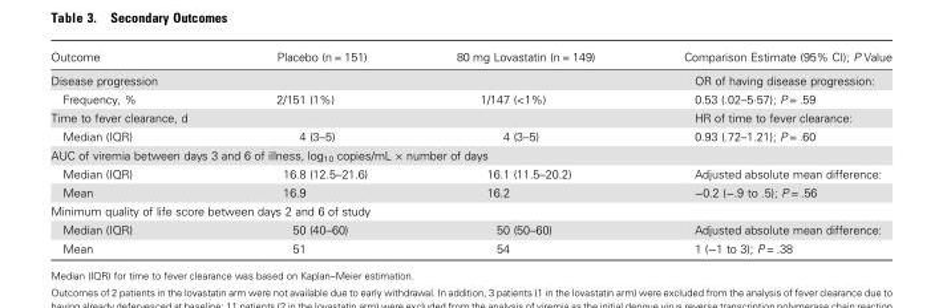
<table><thead><tr><td>Outcome</td><td>Placebo (n = 151)</td><td>80 mg Lovastatin (n = 149)</td><td>Comparison Estimate (95% CI); P Value</td></tr></thead><tbody><tr><td>Disease progression</td><td></td><td></td><td>OR of having disease progression:</td></tr><tr><td>Frequency, %</td><td>2/151 (1%)</td><td>1/147 (&lt;1%)</td><td>0.53 (.02–5·57); P = .59</td></tr><tr><td>Time to fever clearance, d</td><td></td><td></td><td>HR of time to fever clearance:</td></tr><tr><td>Median (IQR)</td><td>4 (3–5)</td><td>4 (3–5)</td><td>0.93 (.72–1.21); P = .60</td></tr><tr><td colspan="4">AUC of viremia between days 3 and 6 of illness, log<sub>10</sub> copies/mL × number of days</td></tr><tr><td>Median (IQR)</td><td>16.8 (12.5–21.6)</td><td>16.1 (11.5–20.2)</td><td>Adjusted absolute mean difference:</td></tr><tr><td>Mean</td><td>16.9</td><td>16.2</td><td>−0.2 (−.9 to .5); P = .56</td></tr><tr><td colspan="4">Minimum quality of life score between days 2 and 6 of study</td></tr><tr><td>Median (IQR)</td><td>50 (40–60)</td><td>50 (50–60)</td><td>Adjusted absolute mean difference:</td></tr><tr><td>Mean</td><td>51</td><td>54</td><td>1 (−1 to 3); P = .38</td></tr></tbody></table>